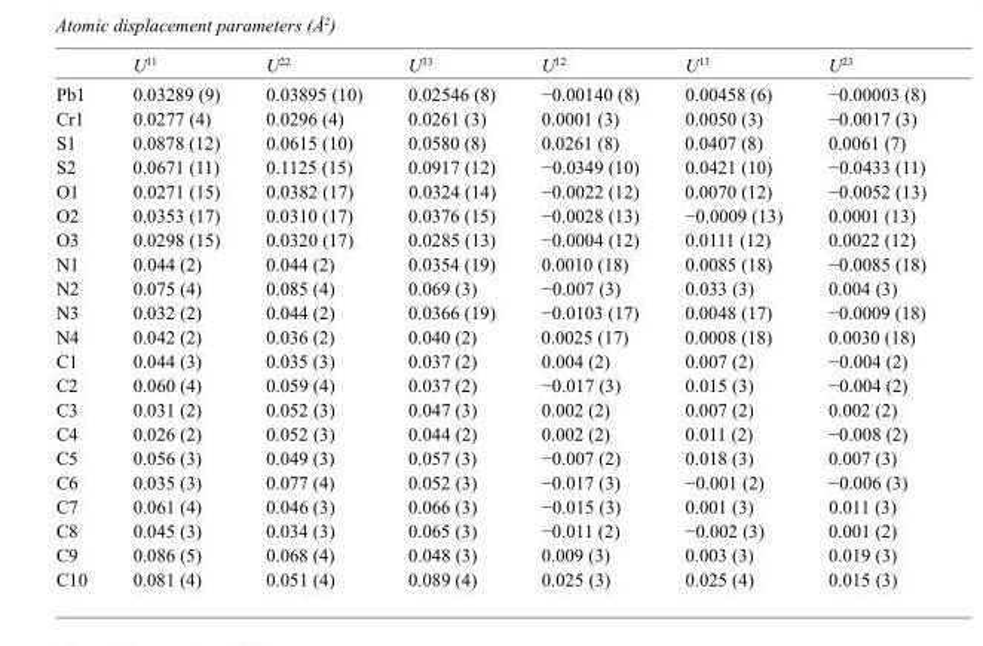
<table><thead><tr><td></td><td>U<sup>11</sup></td><td>U<sup>22</sup></td><td>U<sup>33</sup></td><td>U<sup>12</sup></td><td>U<sup>13</sup></td><td>U<sup>23</sup></td></tr></thead><tbody><tr><td>Pb1</td><td>0.03289 (9)</td><td>0.03895 (10)</td><td>0.02546 (8)</td><td>−0.00140 (8)</td><td>0.00458 (6)</td><td>−0.00003 (8)</td></tr><tr><td>Cr1</td><td>0.0277 (4)</td><td>0.0296 (4)</td><td>0.0261 (3)</td><td>0.0001 (3)</td><td>0.0050 (3)</td><td>−0.0017 (3)</td></tr><tr><td>S1</td><td>0.0878 (12)</td><td>0.0615 (10)</td><td>0.0580 (8)</td><td>0.0261 (8)</td><td>0.0407 (8)</td><td>0.0061 (7)</td></tr><tr><td>S2</td><td>0.0671 (11)</td><td>0.1125 (15)</td><td>0.0917 (12)</td><td>−0.0349 (10)</td><td>0.0421 (10)</td><td>−0.0433 (11)</td></tr><tr><td>O1</td><td>0.0271 (15)</td><td>0.0382 (17)</td><td>0.0324 (14)</td><td>−0.0022 (12)</td><td>0.0070 (12)</td><td>−0.0052 (13)</td></tr><tr><td>O2</td><td>0.0353 (17)</td><td>0.0310 (17)</td><td>0.0376 (15)</td><td>−0.0028 (13)</td><td>−0.0009 (13)</td><td>0.0001 (13)</td></tr><tr><td>O3</td><td>0.0298 (15)</td><td>0.0320 (17)</td><td>0.0285 (13)</td><td>−0.0004 (12)</td><td>0.0111 (12)</td><td>0.0022 (12)</td></tr><tr><td>N1</td><td>0.044 (2)</td><td>0.044 (2)</td><td>0.0354 (19)</td><td>0.0010 (18)</td><td>0.0085 (18)</td><td>−0.0085 (18)</td></tr><tr><td>N2</td><td>0.075 (4)</td><td>0.085 (4)</td><td>0.069 (3)</td><td>−0.007 (3)</td><td>0.033 (3)</td><td>0.004 (3)</td></tr><tr><td>N3</td><td>0.032 (2)</td><td>0.044 (2)</td><td>0.0366 (19)</td><td>−0.0103 (17)</td><td>0.0048 (17)</td><td>−0.0009 (18)</td></tr><tr><td>N4</td><td>0.042 (2)</td><td>0.036 (2)</td><td>0.040 (2)</td><td>0.0025 (17)</td><td>0.0008 (18)</td><td>0.0030 (18)</td></tr><tr><td>C1</td><td>0.044 (3)</td><td>0.035 (3)</td><td>0.037 (2)</td><td>0.004 (2)</td><td>0.007 (2)</td><td>−0.004 (2)</td></tr><tr><td>C2</td><td>0.060 (4)</td><td>0.059 (4)</td><td>0.037 (2)</td><td>−0.017 (3)</td><td>0.015 (3)</td><td>−0.004 (2)</td></tr><tr><td>C3</td><td>0.031 (2)</td><td>0.052 (3)</td><td>0.047 (3)</td><td>0.002 (2)</td><td>0.007 (2)</td><td>0.002 (2)</td></tr><tr><td>C4</td><td>0.026 (2)</td><td>0.052 (3)</td><td>0.044 (2)</td><td>0.002 (2)</td><td>0.011 (2)</td><td>−0.008 (2)</td></tr><tr><td>C5</td><td>0.056 (3)</td><td>0.049 (3)</td><td>0.057 (3)</td><td>−0.007 (2)</td><td>0.018 (3)</td><td>0.007 (3)</td></tr><tr><td>C6</td><td>0.035 (3)</td><td>0.077 (4)</td><td>0.052 (3)</td><td>−0.017 (3)</td><td>−0.001 (2)</td><td>−0.006 (3)</td></tr><tr><td>C7</td><td>0.061 (4)</td><td>0.046 (3)</td><td>0.066 (3)</td><td>−0.015 (3)</td><td>0.001 (3)</td><td>0.011 (3)</td></tr><tr><td>C8</td><td>0.045 (3)</td><td>0.034 (3)</td><td>0.065 (3)</td><td>−0.011 (2)</td><td>−0.002 (3)</td><td>0.001 (2)</td></tr><tr><td>C9</td><td>0.086 (5)</td><td>0.068 (4)</td><td>0.048 (3)</td><td>0.009 (3)</td><td>0.003 (3)</td><td>0.019 (3)</td></tr><tr><td>C10</td><td>0.081 (4)</td><td>0.051 (4)</td><td>0.089 (4)</td><td>0.025 (3)</td><td>0.025 (4)</td><td>0.015 (3)</td></tr></tbody></table>